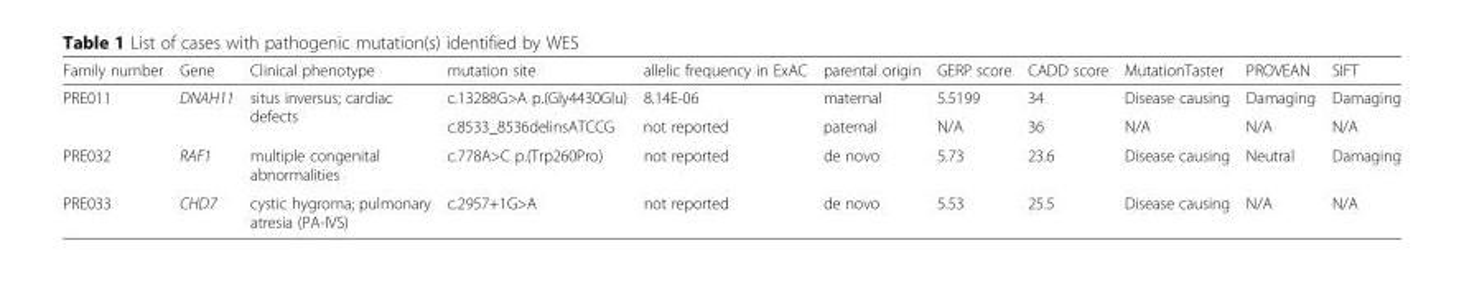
<table><thead><tr><td>Family number</td><td>Gene</td><td>Clinical phenotype</td><td>mutation site</td><td>allelic frequency in ExAC</td><td>parental origin</td><td>GERP score</td><td>CADD score</td><td>MutationTaster</td><td>PROVEAN</td><td>SIFT</td></tr></thead><tbody><tr><td rowspan="2">PRE011</td><td rowspan="2">DNAH11</td><td rowspan="2">situs inversus; cardiac defects</td><td>c.13288G&gt;A p.(Gly4430Glu)</td><td>8.14E-06</td><td>maternal</td><td>5.5199</td><td>34</td><td>Disease causing</td><td>Damaging</td><td>Damaging</td></tr><tr><td>c.8533_8536delinsATCCG</td><td>not reported</td><td>paternal</td><td>N/A</td><td>36</td><td>N/A</td><td>N/A</td><td>N/A</td></tr><tr><td>PRE032</td><td>RAF1</td><td>multiple congenital abnormalities</td><td>c.778A&gt;C p.(Trp260Pro)</td><td>not reported</td><td>de novo</td><td>5.73</td><td>23.6</td><td>Disease causing</td><td>Neutral</td><td>Damaging</td></tr><tr><td>PRE033</td><td>CHD7</td><td>cystic hygroma; pulmonary atresia (PA-IVS)</td><td>c.2957+1G&gt;A</td><td>not reported</td><td>de novo</td><td>5.53</td><td>25.5</td><td>Disease causing</td><td>N/A</td><td>N/A</td></tr></tbody></table>